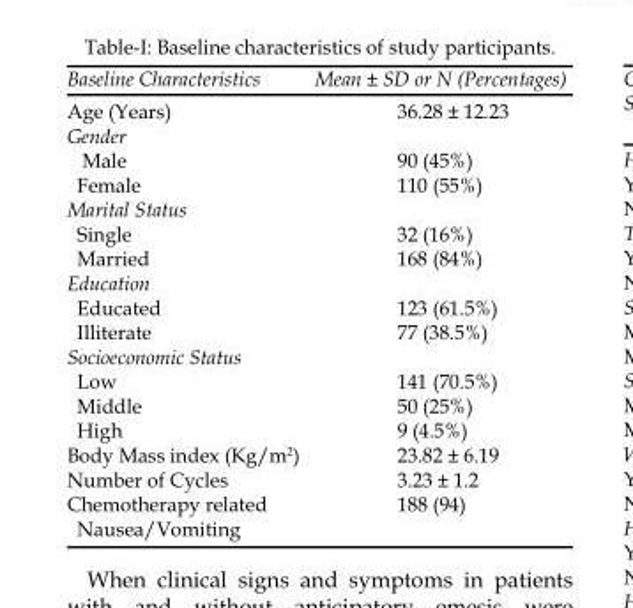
<table><thead><tr><td>Baseline Characteristics</td><td>Mean ± SD or N (Percentages)</td></tr></thead><tbody><tr><td>Age (Years)</td><td>36.28 ± 12.23</td></tr><tr><td colspan="2">Gender</td></tr><tr><td>Male</td><td>90 (45%)</td></tr><tr><td>Female</td><td>110 (55%)</td></tr><tr><td colspan="2">Marital Status</td></tr><tr><td>Single</td><td>32 (16%)</td></tr><tr><td>Married</td><td>168 (84%)</td></tr><tr><td colspan="2">Education</td></tr><tr><td>Educated</td><td>123 (61.5%)</td></tr><tr><td>Illiterate</td><td>77 (38.5%)</td></tr><tr><td colspan="2">Socioeconomic Status</td></tr><tr><td>Low</td><td>141 (70.5%)</td></tr><tr><td>Middle</td><td>50 (25%)</td></tr><tr><td>High</td><td>9 (4.5%)</td></tr><tr><td>Body Mass index (Kg/m<sup>2</sup>)</td><td>23.82 ± 6.19</td></tr><tr><td>Number of Cycles</td><td>3.23 ± 1.2</td></tr><tr><td>Chemotherapy related Nausea/Vomiting</td><td>188 (94)</td></tr></tbody></table>